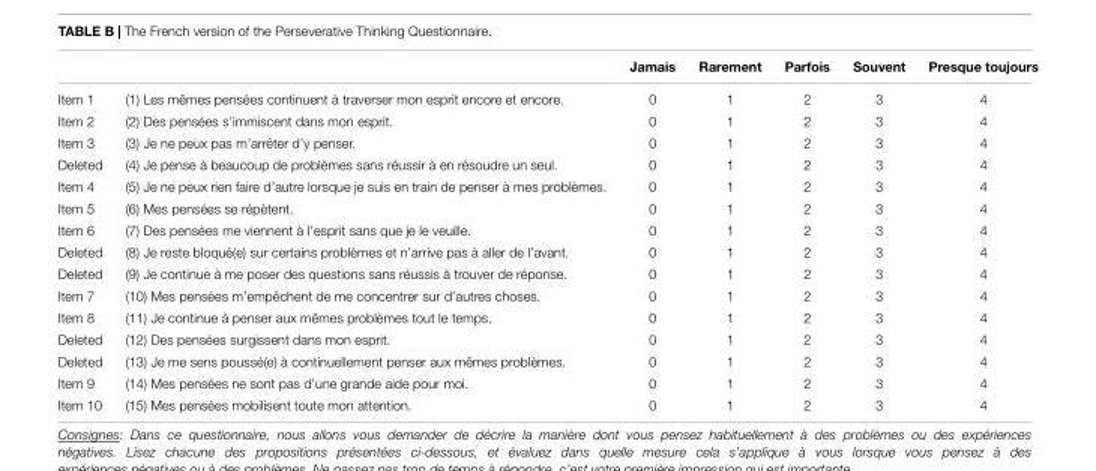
<table><thead><tr><td></td><td></td><td>Jamais</td><td>Rarement</td><td>Parfois</td><td>Souvent</td><td>Presque toujours</td></tr></thead><tbody><tr><td>Item 1</td><td>(1) Les mêmes pensées continuent à traverser mon esprit encore et encore.</td><td>0</td><td>1</td><td>2</td><td>3</td><td>4</td></tr><tr><td>Item 2</td><td>(2) Des pensées s’immiscent dans mon esprit.</td><td>0</td><td>1</td><td>2</td><td>3</td><td>4</td></tr><tr><td>Item 3</td><td>(3) Je ne peux pas m’arrêter d’y penser.</td><td>0</td><td>1</td><td>2</td><td>3</td><td>4</td></tr><tr><td>Deleted</td><td>(4) Je pense à beaucoup de problèmes sans réussir à en résoudre un seul.</td><td>0</td><td>1</td><td>2</td><td>3</td><td>4</td></tr><tr><td>Item 4</td><td>(5) Je ne peux rien faire d’autre lorsque je suis en train de penser à mes problèmes.</td><td>0</td><td>1</td><td>2</td><td>3</td><td>4</td></tr><tr><td>Item 5</td><td>(6) Mes pensées se répètent.</td><td>0</td><td>1</td><td>2</td><td>3</td><td>4</td></tr><tr><td>Item 6</td><td>(7) Des pensées me viennent à l’esprit sans que je le veuille.</td><td>0</td><td>1</td><td>2</td><td>3</td><td>4</td></tr><tr><td>Deleted</td><td>(8) Je reste bloqué(e) sur certains problèmes et n’arrive pas à aller de l’avant.</td><td>0</td><td>1</td><td>2</td><td>3</td><td>4</td></tr><tr><td>Deleted</td><td>(9) Je continue à me poser des questions sans réussis à trouver de réponse.</td><td>0</td><td>1</td><td>2</td><td>3</td><td>4</td></tr><tr><td>Item 7</td><td>(10) Mes pensées m’empêchent de me concentrer sur d’autres choses.</td><td>0</td><td>1</td><td>2</td><td>3</td><td>4</td></tr><tr><td>Item 8</td><td>(11) Je continue à penser aux mêmes problèmes tout le temps.</td><td>0</td><td>1</td><td>2</td><td>3</td><td>4</td></tr><tr><td>Deleted</td><td>(12) Des pensées surgissent dans mon esprit.</td><td>0</td><td>1</td><td>2</td><td>3</td><td>4</td></tr><tr><td>Deleted</td><td>(13) Je me sens poussé(e) à continuellement penser aux mêmes problèmes.</td><td>0</td><td>1</td><td>2</td><td>3</td><td>4</td></tr><tr><td>Item 9</td><td>(14) Mes pensées ne sont pas d’une grande aide pour moi.</td><td>0</td><td>1</td><td>2</td><td>3</td><td>4</td></tr><tr><td>Item 10</td><td>(15) Mes pensées mobilisent toute mon attention.</td><td>0</td><td>1</td><td>2</td><td>3</td><td>4</td></tr></tbody></table>